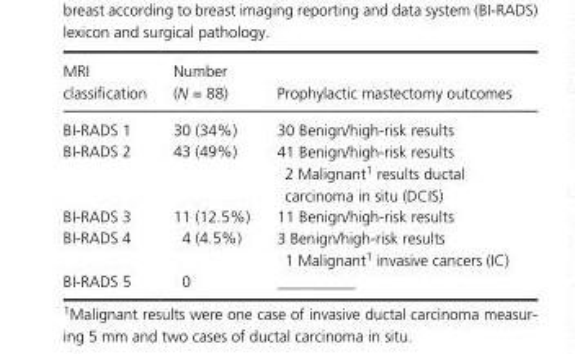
<table><thead><tr><td>MRI classification</td><td>Number (N = 88)</td><td>Prophylactic mastectomy outcomes</td></tr></thead><tbody><tr><td>BI- RADS 1</td><td>30 (34%)</td><td>30 Benign/high- risk results</td></tr><tr><td>BI- RADS 2</td><td>43 (49%)</td><td>41 Benign/high- risk results 2 Malignant1 results ductal carcinoma in situ (DCIS)</td></tr><tr><td>BI- RADS 3</td><td>11 (12.5%)</td><td>11 Benign/high- risk results</td></tr><tr><td>BI- RADS 4</td><td>4 (4.5%)</td><td>3 Benign/high- risk results 1 Malignant1 invasive cancers (IC)</td></tr><tr><td>BI- RADS 5</td><td>0</td><td>__________</td></tr></tbody></table>